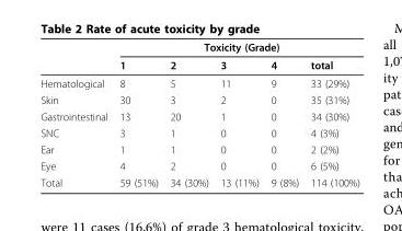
<table><thead><tr><td rowspan="2"></td><td colspan="5">Toxicity (Grade)</td></tr><tr><td>1</td><td>2</td><td>3</td><td>4</td><td>total</td></tr></thead><tbody><tr><td>Hematological</td><td>8</td><td>5</td><td>11</td><td>9</td><td>33 (29%)</td></tr><tr><td>Skin</td><td>30</td><td>3</td><td>2</td><td>0</td><td>35 (31%)</td></tr><tr><td>Gastrointestinal</td><td>13</td><td>20</td><td>1</td><td>0</td><td>34 (30%)</td></tr><tr><td>SNC</td><td>3</td><td>1</td><td>0</td><td>0</td><td>4 (3%)</td></tr><tr><td>Ear</td><td>1</td><td>1</td><td>0</td><td>0</td><td>2 (2%)</td></tr><tr><td>Eye</td><td>4</td><td>2</td><td>0</td><td>0</td><td>6 (5%)</td></tr><tr><td>Total</td><td>59 (51%)</td><td>34 (30%)</td><td>13 (11%)</td><td>9 (8%)</td><td>114 (100%)</td></tr></tbody></table>